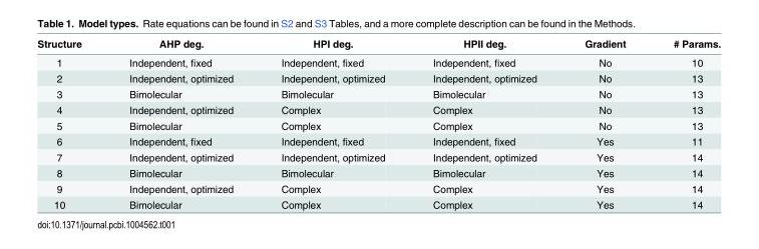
<table><thead><tr><td>Structure</td><td>AHP deg.</td><td>HPI deg.</td><td>HPII deg.</td><td>Gradient</td><td># Params.</td></tr></thead><tbody><tr><td>1</td><td>Independent, fixed</td><td>Independent, fixed</td><td>Independent, fixed</td><td>No</td><td>10</td></tr><tr><td>2</td><td>Independent, optimized</td><td>Independent, optimized</td><td>Independent, optimized</td><td>No</td><td>13</td></tr><tr><td>3</td><td>Bimolecular</td><td>Bimolecular</td><td>Bimolecular</td><td>No</td><td>13</td></tr><tr><td>4</td><td>Independent, optimized</td><td>Complex</td><td>Complex</td><td>No</td><td>13</td></tr><tr><td>5</td><td>Bimolecular</td><td>Complex</td><td>Complex</td><td>No</td><td>13</td></tr><tr><td>6</td><td>Independent, fixed</td><td>Independent, fixed</td><td>Independent, fixed</td><td>Yes</td><td>11</td></tr><tr><td>7</td><td>Independent, optimized</td><td>Independent, optimized</td><td>Independent, optimized</td><td>Yes</td><td>14</td></tr><tr><td>8</td><td>Bimolecular</td><td>Bimolecular</td><td>Bimolecular</td><td>Yes</td><td>14</td></tr><tr><td>9</td><td>Independent, optimized</td><td>Complex</td><td>Complex</td><td>Yes</td><td>14</td></tr><tr><td>10</td><td>Bimolecular</td><td>Complex</td><td>Complex</td><td>Yes</td><td>14</td></tr></tbody></table>